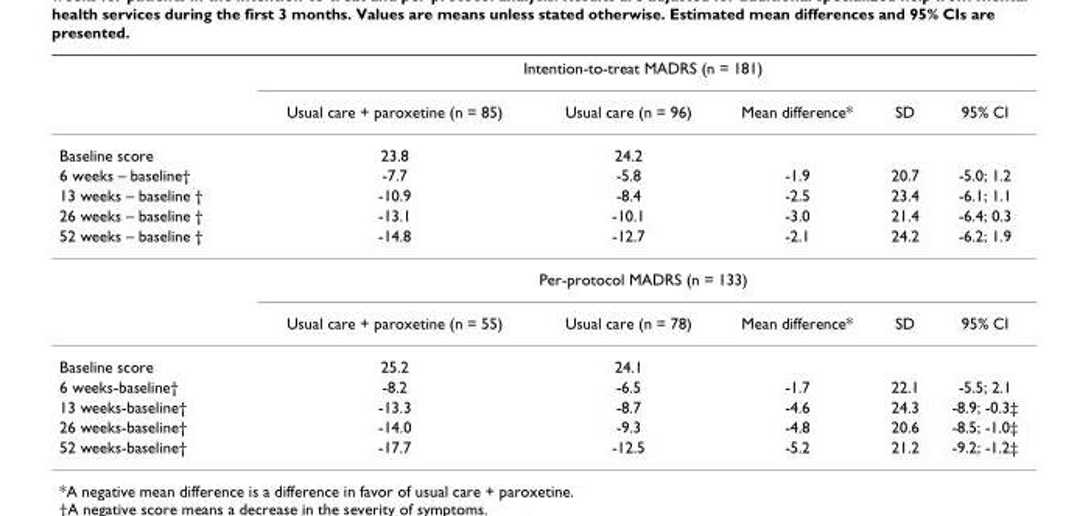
<table><thead><tr><td rowspan="2"></td><td colspan="5">Intention-to-treat MADRS (n = 181)</td></tr><tr><td>Usual care + paroxetine (n = 85)</td><td>Usual care (n = 96)</td><td>Mean difference*</td><td>SD</td><td>95% CI</td></tr></thead><tbody><tr><td>Baseline score</td><td>23.8</td><td>24.2</td><td></td><td></td><td></td></tr><tr><td>6 weeks – baseline†</td><td>-7.7</td><td>-5.8</td><td>-1.9</td><td>20.7</td><td>-5.0; 1.2</td></tr><tr><td>13 weeks – baseline †</td><td>-10.9</td><td>-8.4</td><td>-2.5</td><td>23.4</td><td>-6.1; 1.1</td></tr><tr><td>26 weeks – baseline †</td><td>-13.1</td><td>-10.1</td><td>-3.0</td><td>21.4</td><td>-6.4; 0.3</td></tr><tr><td rowspan="3">52 weeks – baseline †</td><td>-14.8</td><td>-12.7</td><td>-2.1</td><td>24.2</td><td>-6.2; 1.9</td></tr><tr><td colspan="5">Per-protocol MADRS (n = 133)</td></tr><tr><td>Usual care + paroxetine (n = 55)</td><td>Usual care (n = 78)</td><td>Mean difference*</td><td>SD</td><td>95% CI</td></tr><tr><td>Baseline score</td><td>25.2</td><td>24.1</td><td></td><td></td><td></td></tr><tr><td>6 weeks-baseline†</td><td>-8.2</td><td>-6.5</td><td>-1.7</td><td>22.1</td><td>-5.5; 2.1</td></tr><tr><td>13 weeks-baseline†</td><td>-13.3</td><td>-8.7</td><td>-4.6</td><td>24.3</td><td>-8.9; -0.3‡</td></tr><tr><td>26 weeks-baseline†</td><td>-14.0</td><td>-9.3</td><td>-4.8</td><td>20.6</td><td>-8.5; -1.0‡</td></tr><tr><td>52 weeks-baseline†</td><td>-17.7</td><td>-12.5</td><td>-5.2</td><td>21.2</td><td>-9.2; -1.2‡</td></tr></tbody></table>